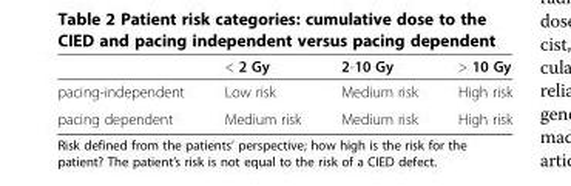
<table><thead><tr><td></td><td>&lt; 2 Gy</td><td>2-10 Gy</td><td>&gt; 10 Gy</td></tr></thead><tbody><tr><td>pacing-independent</td><td>Low risk</td><td>Medium risk</td><td>High risk</td></tr><tr><td>pacing dependent</td><td>Medium risk</td><td>Medium risk</td><td>High risk</td></tr></tbody></table>